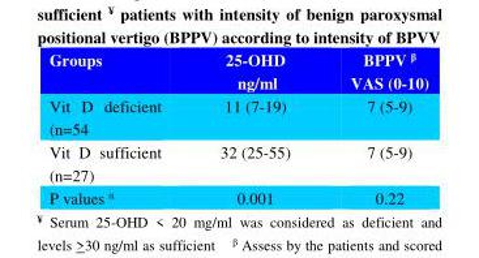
<table><thead><tr><td>Groups</td><td>25-OHD ng/ml</td><td>BPPV β VAS (0-10)</td></tr></thead><tbody><tr><td>Vit D deficient (n=54</td><td>11 (7-19)</td><td>7 (5-9)</td></tr><tr><td>Vit D sufficient (n=27)</td><td>32 (25-55)</td><td>7 (5-9)</td></tr><tr><td>P values α</td><td>0.001</td><td>0.22</td></tr></tbody></table>